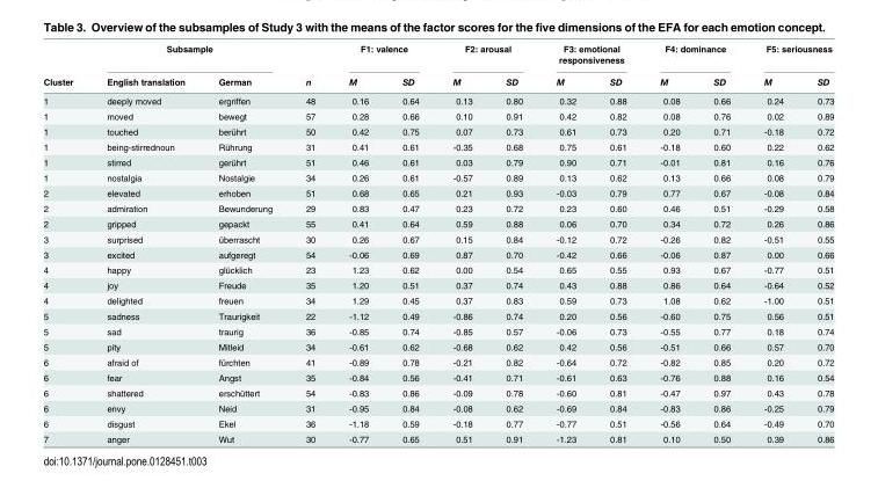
<table><thead><tr><td rowspan="2">Cluster</td><td colspan="2">Subsample</td><td rowspan="2">n</td><td colspan="2">F1: valence</td><td colspan="2">F2: arousal</td><td colspan="2">F3: emotional responsiveness</td><td colspan="2">F4: dominance</td><td colspan="2">F5: seriousness</td></tr><tr><td>English translation</td><td>German</td><td>M</td><td>SD</td><td>M</td><td>SD</td><td>M</td><td>SD</td><td>M</td><td>SD</td><td>M</td><td>SD</td></tr></thead><tbody><tr><td>1</td><td>deeply moved</td><td>ergriffen</td><td>48</td><td>0.16</td><td>0.64</td><td>0.13</td><td>0.80</td><td>0.32</td><td>0.88</td><td>0.08</td><td>0.66</td><td>0.24</td><td>0.73</td></tr><tr><td>1</td><td>moved</td><td>bewegt</td><td>57</td><td>0.28</td><td>0.66</td><td>0.10</td><td>0.91</td><td>0.42</td><td>0.82</td><td>0.08</td><td>0.76</td><td>0.02</td><td>0.89</td></tr><tr><td>1</td><td>touched</td><td>berührt</td><td>50</td><td>0.42</td><td>0.75</td><td>0.07</td><td>0.73</td><td>0.61</td><td>0.73</td><td>0.20</td><td>0.71</td><td>-0.18</td><td>0.72</td></tr><tr><td>1</td><td>being-stirrednoun</td><td>Rührung</td><td>31</td><td>0.41</td><td>0.61</td><td>-0.35</td><td>0.68</td><td>0.75</td><td>0.61</td><td>-0.18</td><td>0.60</td><td>0.22</td><td>0.62</td></tr><tr><td>1</td><td>stirred</td><td>gerührt</td><td>51</td><td>0.46</td><td>0.61</td><td>0.03</td><td>0.79</td><td>0.90</td><td>0.71</td><td>-0.01</td><td>0.81</td><td>0.16</td><td>0.76</td></tr><tr><td>1</td><td>nostalgia</td><td>Nostalgie</td><td>34</td><td>0.26</td><td>0.61</td><td>-0.57</td><td>0.89</td><td>0.13</td><td>0.62</td><td>0.13</td><td>0.66</td><td>0.08</td><td>0.79</td></tr><tr><td>2</td><td>elevated</td><td>erhoben</td><td>51</td><td>0.68</td><td>0.65</td><td>0.21</td><td>0.93</td><td>-0.03</td><td>0.79</td><td>0.77</td><td>0.67</td><td>-0.08</td><td>0.84</td></tr><tr><td>2</td><td>admiration</td><td>Bewunderung</td><td>29</td><td>0.83</td><td>0.47</td><td>0.23</td><td>0.72</td><td>0.23</td><td>0.60</td><td>0.46</td><td>0.51</td><td>-0.29</td><td>0.58</td></tr><tr><td>2</td><td>gripped</td><td>gepackt</td><td>55</td><td>0.41</td><td>0.64</td><td>0.59</td><td>0.88</td><td>0.06</td><td>0.70</td><td>0.34</td><td>0.72</td><td>0.26</td><td>0.86</td></tr><tr><td>3</td><td>surprised</td><td>überrascht</td><td>30</td><td>0.26</td><td>0.67</td><td>0.15</td><td>0.84</td><td>-0.12</td><td>0.72</td><td>-0.26</td><td>0.82</td><td>-0.51</td><td>0.55</td></tr><tr><td>3</td><td>excited</td><td>aufgeregt</td><td>54</td><td>-0.06</td><td>0.69</td><td>0.87</td><td>0.70</td><td>-0.42</td><td>0.66</td><td>-0.06</td><td>0.87</td><td>0.00</td><td>0.66</td></tr><tr><td>4</td><td>happy</td><td>glücklich</td><td>23</td><td>1.23</td><td>0.62</td><td>0.00</td><td>0.54</td><td>0.65</td><td>0.55</td><td>0.93</td><td>0.67</td><td>-0.77</td><td>0.51</td></tr><tr><td>4</td><td>joy</td><td>Freude</td><td>35</td><td>1.20</td><td>0.51</td><td>0.37</td><td>0.74</td><td>0.43</td><td>0.88</td><td>0.86</td><td>0.64</td><td>-0.64</td><td>0.52</td></tr><tr><td>4</td><td>delighted</td><td>freuen</td><td>34</td><td>1.29</td><td>0.45</td><td>0.37</td><td>0.83</td><td>0.59</td><td>0.73</td><td>1.08</td><td>0.62</td><td>-1.00</td><td>0.51</td></tr><tr><td>5</td><td>sadness</td><td>Traurigkeit</td><td>22</td><td>-1.12</td><td>0.49</td><td>-0.86</td><td>0.74</td><td>0.20</td><td>0.56</td><td>-0.60</td><td>0.75</td><td>0.56</td><td>0.51</td></tr><tr><td>5</td><td>sad</td><td>traurig</td><td>36</td><td>-0.85</td><td>0.74</td><td>-0.85</td><td>0.57</td><td>-0.06</td><td>0.73</td><td>-0.55</td><td>0.77</td><td>0.18</td><td>0.74</td></tr><tr><td>5</td><td>pity</td><td>Mitleid</td><td>34</td><td>-0.61</td><td>0.62</td><td>-0.68</td><td>0.62</td><td>0.42</td><td>0.56</td><td>-0.51</td><td>0.66</td><td>0.57</td><td>0.70</td></tr><tr><td>6</td><td>afraid of</td><td>fürchten</td><td>41</td><td>-0.89</td><td>0.78</td><td>-0.21</td><td>0.82</td><td>-0.64</td><td>0.72</td><td>-0.82</td><td>0.85</td><td>0.20</td><td>0.72</td></tr><tr><td>6</td><td>fear</td><td>Angst</td><td>35</td><td>-0.84</td><td>0.56</td><td>-0.41</td><td>0.71</td><td>-0.61</td><td>0.63</td><td>-0.76</td><td>0.88</td><td>0.16</td><td>0.54</td></tr><tr><td>6</td><td>shattered</td><td>erschüttert</td><td>54</td><td>-0.83</td><td>0.86</td><td>-0.09</td><td>0.78</td><td>-0.60</td><td>0.81</td><td>-0.47</td><td>0.97</td><td>0.43</td><td>0.78</td></tr><tr><td>6</td><td>envy</td><td>Neid</td><td>31</td><td>-0.95</td><td>0.84</td><td>-0.08</td><td>0.62</td><td>-0.69</td><td>0.84</td><td>-0.83</td><td>0.86</td><td>-0.25</td><td>0.79</td></tr><tr><td>6</td><td>disgust</td><td>Ekel</td><td>36</td><td>-1.18</td><td>0.59</td><td>-0.18</td><td>0.77</td><td>-0.77</td><td>0.51</td><td>-0.56</td><td>0.64</td><td>-0.49</td><td>0.70</td></tr><tr><td>7</td><td>anger</td><td>Wut</td><td>30</td><td>-0.77</td><td>0.65</td><td>0.51</td><td>0.91</td><td>-1.23</td><td>0.81</td><td>0.10</td><td>0.50</td><td>0.39</td><td>0.86</td></tr></tbody></table>